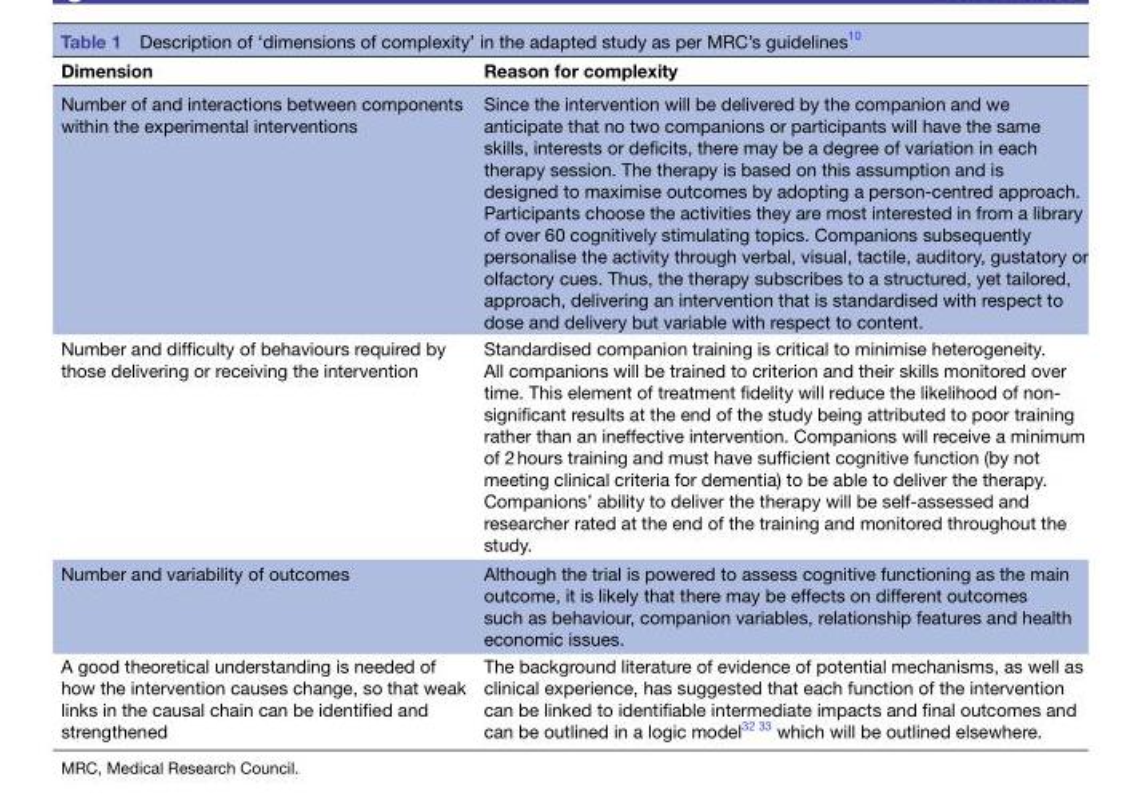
<table><thead><tr><td>Dimension</td><td>Reason for complexity</td></tr></thead><tbody><tr><td>Number of and interactions between components within the experimental interventions</td><td>Since the intervention will be delivered by the companion and we anticipate that no two companions or participants will have the same skills, interests or deficits, there may be a degree of variation in each therapy session. The therapy is based on this assumption and is designed to maximise outcomes by adopting a person-centred approach. Participants choose the activities they are most interested in from a library of over 60 cognitively stimulating topics. Companions subsequently personalise the activity through verbal, visual, tactile, auditory, gustatory or olfactory cues. Thus, the therapy subscribes to a structured, yet tailored, approach, delivering an intervention that is standardised with respect to dose and delivery but variable with respect to content.</td></tr><tr><td>Number and difficulty of behaviours required by those delivering or receiving the intervention</td><td>Standardised companion training is critical to minimise heterogeneity. All companions will be trained to criterion and their skills monitored over time. This element of treatment fidelity will reduce the likelihood of non- significant results at the end of the study being attributed to poor training rather than an ineffective intervention. Companions will receive a minimum of 2 hours training and must have sufficient cognitive function (by not meeting clinical criteria for dementia) to be able to deliver the therapy. Companions’ ability to deliver the therapy will be self-assessed and researcher rated at the end of the training and monitored throughout the study.</td></tr><tr><td>Number and variability of outcomes</td><td>Although the trial is powered to assess cognitive functioning as the main outcome, it is likely that there may be effects on different outcomes such as behaviour, companion variables, relationship features and health economic issues.</td></tr><tr><td>A good theoretical understanding is needed of how the intervention causes change, so that weak links in the causal chain can be identified and strengthened</td><td>The background literature of evidence of potential mechanisms, as well as clinical experience, has suggested that each function of the intervention can be linked to identifiable intermediate impacts and final outcomes and can be outlined in a logic model<sup>32 33</sup> which will be outlined elsewhere.</td></tr></tbody></table>